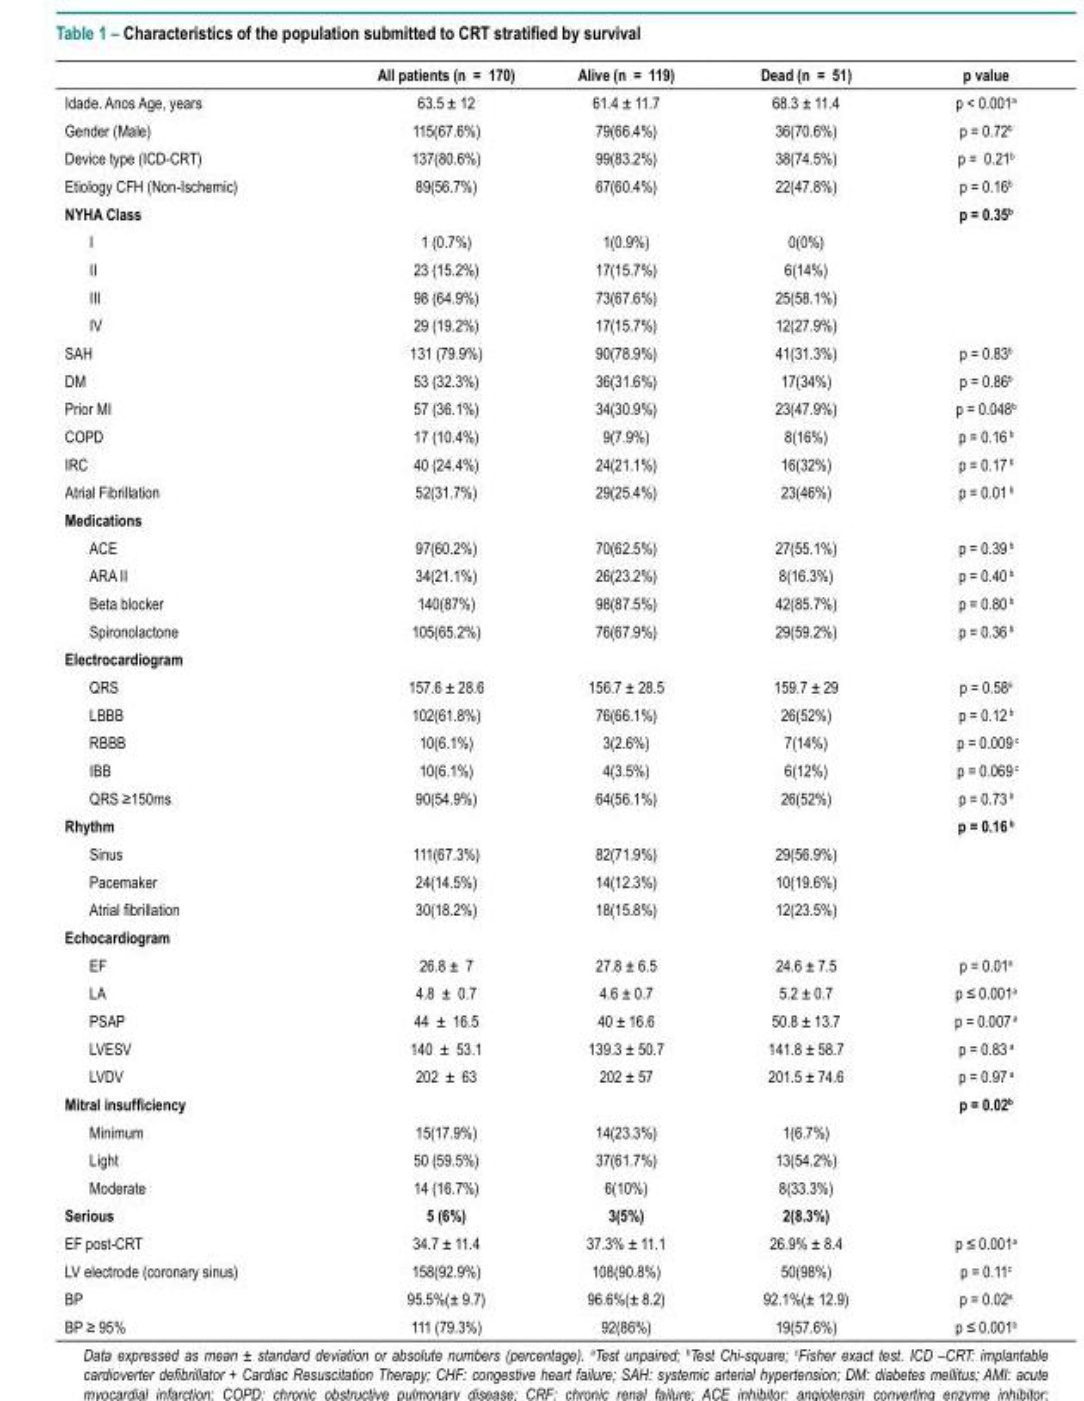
<table><thead><tr><td></td><td>All patients (n = 170)</td><td>Alive (n = 119)</td><td>Dead (n = 51)</td><td>p value</td></tr></thead><tbody><tr><td>Idade. Anos Age, years</td><td>63.5 ± 12</td><td>61.4 ± 11.7</td><td>68.3 ± 11.4</td><td>p &lt; 0.001<sup>a</sup></td></tr><tr><td>Gender (Male)</td><td>115(67.6%)</td><td>79(66.4%)</td><td>36(70.6%)</td><td>p = 0.72<sup>b</sup></td></tr><tr><td>Device type (ICD-CRT)</td><td>137(80.6%)</td><td>99(83.2%)</td><td>38(74.5%)</td><td>p = 0.21<sup>b</sup></td></tr><tr><td>Etiology CFH (Non-Ischemic)</td><td>89(56.7%)</td><td>67(60.4%)</td><td>22(47.8%)</td><td>p = 0.16<sup>b</sup></td></tr><tr><td>NYHA Class</td><td></td><td></td><td></td><td>p = 0.35<sup>b</sup></td></tr><tr><td>I</td><td>1 (0.7%)</td><td>1(0.9%)</td><td>0(0%)</td><td></td></tr><tr><td>II</td><td>23 (15.2%)</td><td>17(15.7%)</td><td>6(14%)</td><td></td></tr><tr><td>III</td><td>98 (64.9%)</td><td>73(67.6%)</td><td>25(58.1%)</td><td></td></tr><tr><td>IV</td><td>29 (19.2%)</td><td>17(15.7%)</td><td>12(27.9%)</td><td></td></tr><tr><td>SAH</td><td>131 (79.9%)</td><td>90(78.9%)</td><td>41(31.3%)</td><td>p = 0.83<sup>b</sup></td></tr><tr><td>DM</td><td>53 (32.3%)</td><td>36(31.6%)</td><td>17(34%)</td><td>p = 0.86<sup>b</sup></td></tr><tr><td>Prior MI</td><td>57 (36.1%)</td><td>34(30.9%)</td><td>23(47.9%)</td><td>p = 0.048<sup>b</sup></td></tr><tr><td>COPD</td><td>17 (10.4%)</td><td>9(7.9%)</td><td>8(16%)</td><td>p = 0.16 <sup>b</sup></td></tr><tr><td>IRC</td><td>40 (24.4%)</td><td>24(21.1%)</td><td>16(32%)</td><td>p = 0.17 <sup>b</sup></td></tr><tr><td>Atrial Fibrillation</td><td>52(31.7%)</td><td>29(25.4%)</td><td>23(46%)</td><td>p = 0.01 <sup>b</sup></td></tr><tr><td colspan="5">Medications</td></tr><tr><td>ACE</td><td>97(60.2%)</td><td>70(62.5%)</td><td>27(55.1%)</td><td>p = 0.39 <sup>b</sup></td></tr><tr><td>ARA II</td><td>34(21.1%)</td><td>26(23.2%)</td><td>8(16.3%)</td><td>p = 0.40 <sup>b</sup></td></tr><tr><td>Beta blocker</td><td>140(87%)</td><td>98(87.5%)</td><td>42(85.7%)</td><td>p = 0.80 <sup>b</sup></td></tr><tr><td>Spironolactone</td><td>105(65.2%)</td><td>76(67.9%)</td><td>29(59.2%)</td><td>p = 0.36 <sup>b</sup></td></tr><tr><td colspan="5">Electrocardiogram</td></tr><tr><td>QRS</td><td>157.6 ± 28.6</td><td>156.7 ± 28.5</td><td>159.7 ± 29</td><td>p = 0.58<sup>a</sup></td></tr><tr><td>LBBB</td><td>102(61.8%)</td><td>76(66.1%)</td><td>26(52%)</td><td>p = 0.12 <sup>b</sup></td></tr><tr><td>RBBB</td><td>10(6.1%)</td><td>3(2.6%)</td><td>7(14%)</td><td>p = 0.009 <sup>c</sup></td></tr><tr><td>IBB</td><td>10(6.1%)</td><td>4(3.5%)</td><td>6(12%)</td><td>p = 0.069 <sup>c</sup></td></tr><tr><td>QRS ≥150ms</td><td>90(54.9%)</td><td>64(56.1%)</td><td>26(52%)</td><td>p = 0.73 <sup>b</sup></td></tr><tr><td>Rhythm</td><td></td><td></td><td></td><td>p = 0.16 <sup>b</sup></td></tr><tr><td>Sinus</td><td>111(67.3%)</td><td>82(71.9%)</td><td>29(56.9%)</td><td></td></tr><tr><td>Pacemaker</td><td>24(14.5%)</td><td>14(12.3%)</td><td>10(19.6%)</td><td></td></tr><tr><td>Atrial fibrillation</td><td>30(18.2%)</td><td>18(15.8%)</td><td>12(23.5%)</td><td></td></tr><tr><td colspan="5">Echocardiogram</td></tr><tr><td>EF</td><td>26.8 ± 7</td><td>27.8 ± 6.5</td><td>24.6 ± 7.5</td><td>p = 0.01<sup>a</sup></td></tr><tr><td>LA</td><td>4.8 ± 0.7</td><td>4.6 ± 0.7</td><td>5.2 ± 0.7</td><td>p ≤ 0.001<sup>a</sup></td></tr><tr><td>PSAP</td><td>44 ± 16.5</td><td>40 ± 16.6</td><td>50.8 ± 13.7</td><td>p = 0.007 <sup>a</sup></td></tr><tr><td>LVESV</td><td>140 ± 53.1</td><td>139.3 ± 50.7</td><td>141.8 ± 58.7</td><td>p = 0.83 <sup>a</sup></td></tr><tr><td>LVDV</td><td>202 ± 63</td><td>202 ± 57</td><td>201.5 ± 74.6</td><td>p = 0.97 <sup>a</sup></td></tr><tr><td>Mitral insufficiency</td><td></td><td></td><td></td><td>p = 0.02<sup>b</sup></td></tr><tr><td>Minimum</td><td>15(17.9%)</td><td>14(23.3%)</td><td>1(6.7%)</td><td></td></tr><tr><td>Light</td><td>50 (59.5%)</td><td>37(61.7%)</td><td>13(54.2%)</td><td></td></tr><tr><td>Moderate</td><td>14 (16.7%)</td><td>6(10%)</td><td>8(33.3%)</td><td></td></tr><tr><td>Serious</td><td>5 (6%)</td><td>3(5%)</td><td>2(8.3%)</td><td></td></tr><tr><td>EF post-CRT</td><td>34.7 ± 11.4</td><td>37.3% ± 11.1</td><td>26.9% ± 8.4</td><td>p ≤ 0.001<sup>a</sup></td></tr><tr><td>LV electrode (coronary sinus)</td><td>158(92.9%)</td><td>108(90.8%)</td><td>50(98%)</td><td>p = 0.11<sup>c</sup></td></tr><tr><td>BP</td><td>95.5%(± 9.7)</td><td>96.6%(± 8.2)</td><td>92.1%(± 12.9)</td><td>p = 0.02<sup>a</sup></td></tr><tr><td>BP ≥ 95%</td><td>111 (79.3%)</td><td>92(86%)</td><td>19(57.6%)</td><td>p ≤ 0.001<sup>b</sup></td></tr></tbody></table>